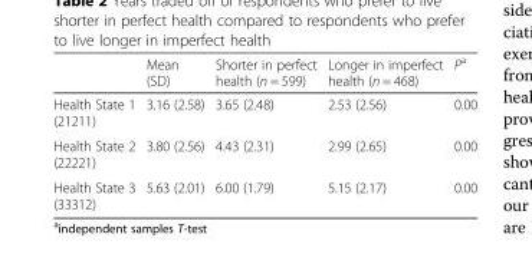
<table><thead><tr><td></td><td>Mean (SD)</td><td>Shorter in perfect health (n = 599)</td><td>Longer in imperfect health (n = 468)</td><td>P<sup>a</sup></td></tr></thead><tbody><tr><td>Health State 1 (21211)</td><td>3.16 (2.58)</td><td>3.65 (2.48)</td><td>2.53 (2.56)</td><td>0.00</td></tr><tr><td>Health State 2 (22221)</td><td>3.80 (2.56)</td><td>4.43 (2.31)</td><td>2.99 (2.65)</td><td>0.00</td></tr><tr><td>Health State 3 (33312)</td><td>5.63 (2.01)</td><td>6.00 (1.79)</td><td>5.15 (2.17)</td><td>0.00</td></tr></tbody></table>